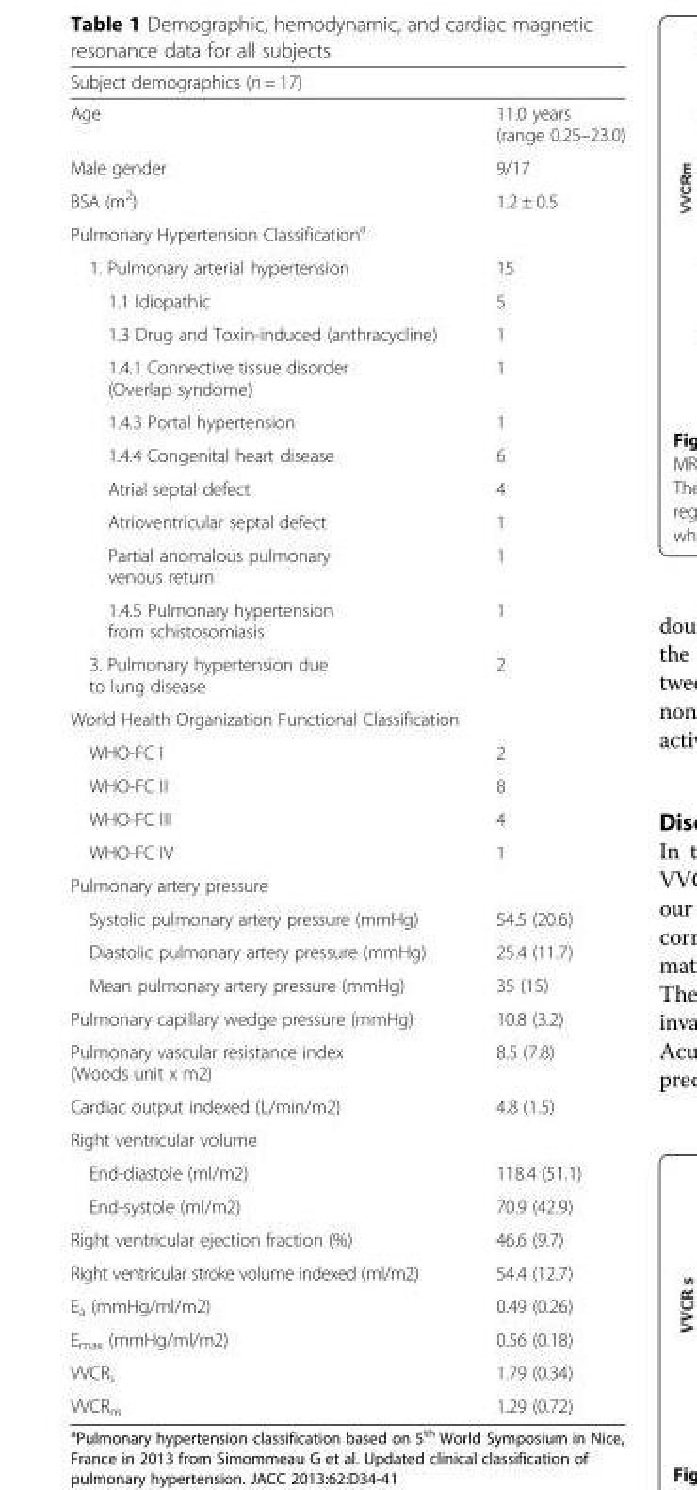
<table><thead><tr><td colspan="2">Subject demographics (n = 17)</td></tr><tr><td>Age</td><td>11.0 years (range 0.25–23.0)</td></tr></thead><tbody><tr><td>Male gender</td><td>9/17</td></tr><tr><td>BSA (m<sup>2</sup>)</td><td>1.2 ± 0.5</td></tr><tr><td colspan="2">Pulmonary Hypertension Classification<sup>a</sup></td></tr><tr><td>1. Pulmonary arterial hypertension</td><td>15</td></tr><tr><td>1.1 Idiopathic</td><td>5</td></tr><tr><td>1.3 Drug and Toxin-induced (anthracycline)</td><td>1</td></tr><tr><td>1.4.1 Connective tissue disorder (Overlap syndome)</td><td>1</td></tr><tr><td>1.4.3 Portal hypertension</td><td>1</td></tr><tr><td>1.4.4 Congenital heart disease</td><td>6</td></tr><tr><td>Atrial septal defect</td><td>4</td></tr><tr><td>Atrioventricular septal defect</td><td>1</td></tr><tr><td>Partial anomalous pulmonary venous return</td><td>1</td></tr><tr><td>1.4.5 Pulmonary hypertension from schistosomiasis</td><td>1</td></tr><tr><td>3. Pulmonary hypertension due to lung disease</td><td>2</td></tr><tr><td colspan="2">World Health Organization Functional Classification</td></tr><tr><td>WHO-FC I</td><td>2</td></tr><tr><td>WHO-FC II</td><td>8</td></tr><tr><td>WHO-FC III</td><td>4</td></tr><tr><td>WHO-FC IV</td><td>1</td></tr><tr><td colspan="2">Pulmonary artery pressure</td></tr><tr><td>Systolic pulmonary artery pressure (mmHg)</td><td>54.5 (20.6)</td></tr><tr><td>Diastolic pulmonary artery pressure (mmHg)</td><td>25.4 (11.7)</td></tr><tr><td>Mean pulmonary artery pressure (mmHg)</td><td>35 (15)</td></tr><tr><td>Pulmonary capillary wedge pressure (mmHg)</td><td>10.8 (3.2)</td></tr><tr><td>Pulmonary vascular resistance index (Woods unit x m2)</td><td>8.5 (7.8)</td></tr><tr><td>Cardiac output indexed (L/min/m2)</td><td>4.8 (1.5)</td></tr><tr><td colspan="2">Right ventricular volume</td></tr><tr><td>End-diastole (ml/m2)</td><td>118.4 (51.1)</td></tr><tr><td>End-systole (ml/m2)</td><td>70.9 (42.9)</td></tr><tr><td>Right ventricular ejection fraction (%)</td><td>46.6 (9.7)</td></tr><tr><td>Right ventricular stroke volume indexed (ml/m2)</td><td>54.4 (12.7)</td></tr><tr><td>E<sub>a</sub> (mmHg/ml/m2)</td><td>0.49 (0.26)</td></tr><tr><td>E<sub>max</sub> (mmHg/ml/m2)</td><td>0.56 (0.18)</td></tr><tr><td>VVCR<sub>s</sub></td><td>1.79 (0.34)</td></tr><tr><td>VVCR<sub>m</sub></td><td>1.29 (0.72)</td></tr></tbody></table>